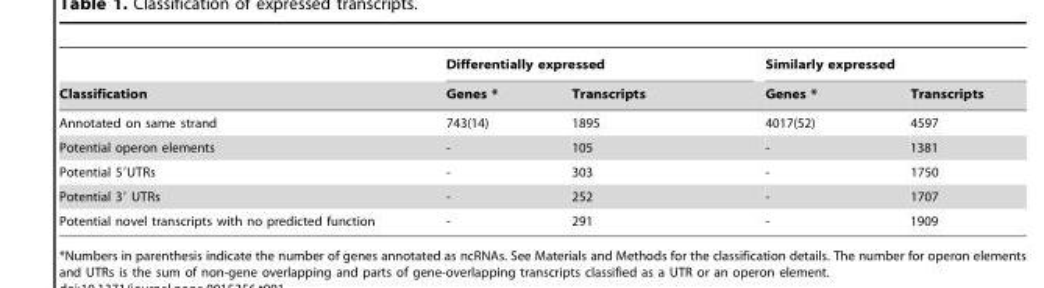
<table><thead><tr><td rowspan="2">Classification</td><td colspan="2">Differentially expressed</td><td colspan="2">Similarly expressed</td></tr><tr><td>Genes *</td><td>Transcripts</td><td>Genes *</td><td>Transcripts</td></tr></thead><tbody><tr><td>Annotated on same strand</td><td>743(14)</td><td>1895</td><td>4017(52)</td><td>4597</td></tr><tr><td>Potential operon elements</td><td>-</td><td>105</td><td>-</td><td>1381</td></tr><tr><td>Potential 5′UTRs</td><td>-</td><td>303</td><td>-</td><td>1750</td></tr><tr><td>Potential 3′ UTRs</td><td>-</td><td>252</td><td>-</td><td>1707</td></tr><tr><td>Potential novel transcripts with no predicted function</td><td>-</td><td>291</td><td>-</td><td>1909</td></tr></tbody></table>